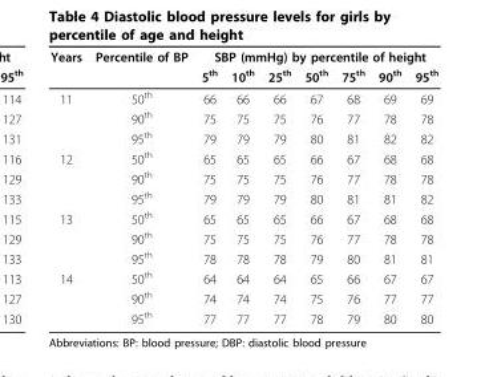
<table><thead><tr><td rowspan="2">Years</td><td rowspan="2">Percentile of BP</td><td colspan="7">SBP (mmHg) by percentile of height</td></tr><tr><td>5<sup>th</sup></td><td>10<sup>th</sup></td><td>25<sup>th</sup></td><td>50<sup>th</sup></td><td>75<sup>th</sup></td><td>90<sup>th</sup></td><td>95<sup>th</sup></td></tr></thead><tbody><tr><td rowspan="3">11</td><td>50<sup>th</sup></td><td>66</td><td>66</td><td>66</td><td>67</td><td>68</td><td>69</td><td>69</td></tr><tr><td>90<sup>th</sup></td><td>75</td><td>75</td><td>75</td><td>76</td><td>77</td><td>78</td><td>78</td></tr><tr><td>95<sup>th</sup></td><td>79</td><td>79</td><td>79</td><td>80</td><td>81</td><td>82</td><td>82</td></tr><tr><td rowspan="3">12</td><td>50<sup>th</sup></td><td>65</td><td>65</td><td>65</td><td>66</td><td>67</td><td>68</td><td>68</td></tr><tr><td>90<sup>th</sup></td><td>75</td><td>75</td><td>75</td><td>76</td><td>77</td><td>78</td><td>78</td></tr><tr><td>95<sup>th</sup></td><td>79</td><td>79</td><td>79</td><td>80</td><td>81</td><td>81</td><td>82</td></tr><tr><td rowspan="3">13</td><td>50<sup>th</sup></td><td>65</td><td>65</td><td>65</td><td>66</td><td>67</td><td>68</td><td>68</td></tr><tr><td>90<sup>th</sup></td><td>75</td><td>75</td><td>75</td><td>76</td><td>77</td><td>78</td><td>78</td></tr><tr><td>95<sup>th</sup></td><td>78</td><td>78</td><td>78</td><td>79</td><td>80</td><td>81</td><td>81</td></tr><tr><td rowspan="3">14</td><td>50<sup>th</sup></td><td>64</td><td>64</td><td>64</td><td>65</td><td>66</td><td>67</td><td>67</td></tr><tr><td>90<sup>th</sup></td><td>74</td><td>74</td><td>74</td><td>75</td><td>76</td><td>77</td><td>77</td></tr><tr><td>95<sup>th</sup></td><td>77</td><td>77</td><td>77</td><td>78</td><td>79</td><td>80</td><td>80</td></tr></tbody></table>